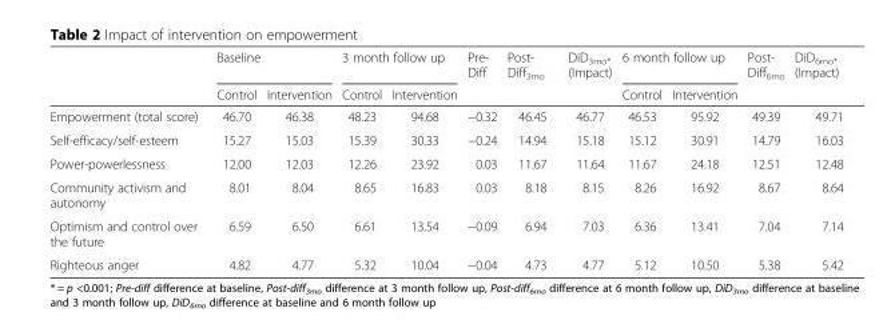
<table><thead><tr><td rowspan="2"></td><td colspan="2">Baseline</td><td colspan="2">3 month follow up</td><td rowspan="2">Pre- Diff</td><td rowspan="2">Post- Diff<sub>3mo</sub></td><td rowspan="2">DiD<sub>3mo*</sub> (Impact)</td><td colspan="2">6 month follow up</td><td rowspan="2">Post- Diff<sub>6mo</sub></td><td rowspan="2">DiD<sub>6mo*</sub> (Impact)</td></tr><tr><td>Control</td><td>Intervention</td><td>Control</td><td>Intervention</td><td>Control</td><td>Intervention</td></tr></thead><tbody><tr><td>Empowerment (total score)</td><td>46.70</td><td>46.38</td><td>48.23</td><td>94.68</td><td>−0.32</td><td>46.45</td><td>46.77</td><td>46.53</td><td>95.92</td><td>49.39</td><td>49.71</td></tr><tr><td>Self-efficacy/self-esteem</td><td>15.27</td><td>15.03</td><td>15.39</td><td>30.33</td><td>−0.24</td><td>14.94</td><td>15.18</td><td>15.12</td><td>30.91</td><td>14.79</td><td>16.03</td></tr><tr><td>Power-powerlessness</td><td>12.00</td><td>12.03</td><td>12.26</td><td>23.92</td><td>0.03</td><td>11.67</td><td>11.64</td><td>11.67</td><td>24.18</td><td>12.51</td><td>12.48</td></tr><tr><td>Community activism and autonomy</td><td>8.01</td><td>8.04</td><td>8.65</td><td>16.83</td><td>0.03</td><td>8.18</td><td>8.15</td><td>8.26</td><td>16.92</td><td>8.67</td><td>8.64</td></tr><tr><td>Optimism and control over the future</td><td>6.59</td><td>6.50</td><td>6.61</td><td>13.54</td><td>−0.09</td><td>6.94</td><td>7.03</td><td>6.36</td><td>13.41</td><td>7.04</td><td>7.14</td></tr><tr><td>Righteous anger</td><td>4.82</td><td>4.77</td><td>5.32</td><td>10.04</td><td>−0.04</td><td>4.73</td><td>4.77</td><td>5.12</td><td>10.50</td><td>5.38</td><td>5.42</td></tr></tbody></table>